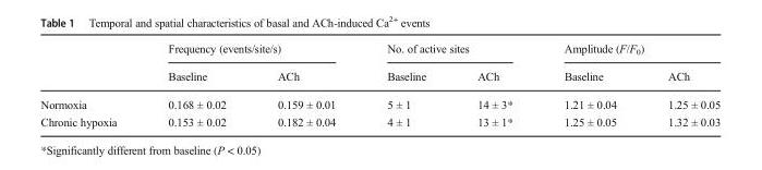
<table><thead><tr><td rowspan="2"></td><td colspan="2">Frequency (events/site/s)</td><td colspan="2">No. of active sites</td><td colspan="2">Amplitude (F/F<sub>0</sub>)</td></tr><tr><td>Baseline</td><td>ACh</td><td>Baseline</td><td>ACh</td><td>Baseline</td><td>ACh</td></tr></thead><tbody><tr><td>Normoxia</td><td>0.168 ± 0.02</td><td>0.159 ± 0.01</td><td>5 ± 1</td><td>14 ± 3*</td><td>1.21 ± 0.04</td><td>1.25 ± 0.05</td></tr><tr><td>Chronic hypoxia</td><td>0.153 ± 0.02</td><td>0.182 ± 0.04</td><td>4 ± 1</td><td>13 ± 1*</td><td>1.25 ± 0.05</td><td>1.32 ± 0.03</td></tr></tbody></table>